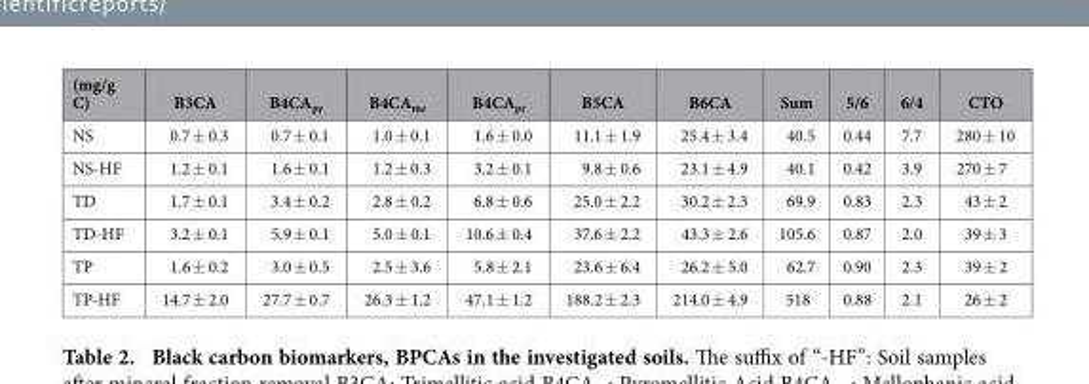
<table><thead><tr><td>(mg/g C)</td><td>B3CA</td><td>B4CA<sub>py</sub></td><td>B4CA<sub>me</sub></td><td>B4CA<sub>pr</sub></td><td>B5CA</td><td>B6CA</td><td>Sum</td><td>5/6</td><td>6/4</td><td>CTO</td></tr></thead><tbody><tr><td>NS</td><td>0.7 ± 0.3</td><td>0.7 ± 0.1</td><td>1.0 ± 0.1</td><td>1.6 ± 0.0</td><td>11.1 ± 1.9</td><td>25.4 ± 3.4</td><td>40.5</td><td>0.44</td><td>7.7</td><td>280 ± 10</td></tr><tr><td>NS-HF</td><td>1.2 ± 0.1</td><td>1.6 ± 0.1</td><td>1.2 ± 0.3</td><td>3.2 ± 0.1</td><td>9.8 ± 0.6</td><td>23.1 ± 4.9</td><td>40.1</td><td>0.42</td><td>3.9</td><td>270 ± 7</td></tr><tr><td>TD</td><td>1.7 ± 0.1</td><td>3.4 ± 0.2</td><td>2.8 ± 0.2</td><td>6.8 ± 0.6</td><td>25.0 ± 2.2</td><td>30.2 ± 2.3</td><td>69.9</td><td>0.83</td><td>2.3</td><td>43 ± 2</td></tr><tr><td>TD-HF</td><td>3.2 ± 0.1</td><td>5.9 ± 0.1</td><td>5.0 ± 0.1</td><td>10.6 ± 0.4</td><td>37.6 ± 2.2</td><td>43.3 ± 2.6</td><td>105.6</td><td>0.87</td><td>2.0</td><td>39 ± 3</td></tr><tr><td>TP</td><td>1.6 ± 0.2</td><td>3.0 ± 0.5</td><td>2.5 ± 3.6</td><td>5.8 ± 2.1</td><td>23.6 ± 6.4</td><td>26.2 ± 5.0</td><td>62.7</td><td>0.90</td><td>2.3</td><td>39 ± 2</td></tr><tr><td>TP-HF</td><td>14.7 ± 2.0</td><td>27.7 ± 0.7</td><td>26.3 ± 1.2</td><td>47.1 ± 1.2</td><td>188.2 ± 2.3</td><td>214.0 ± 4.9</td><td>518</td><td>0.88</td><td>2.1</td><td>26 ± 2</td></tr></tbody></table>